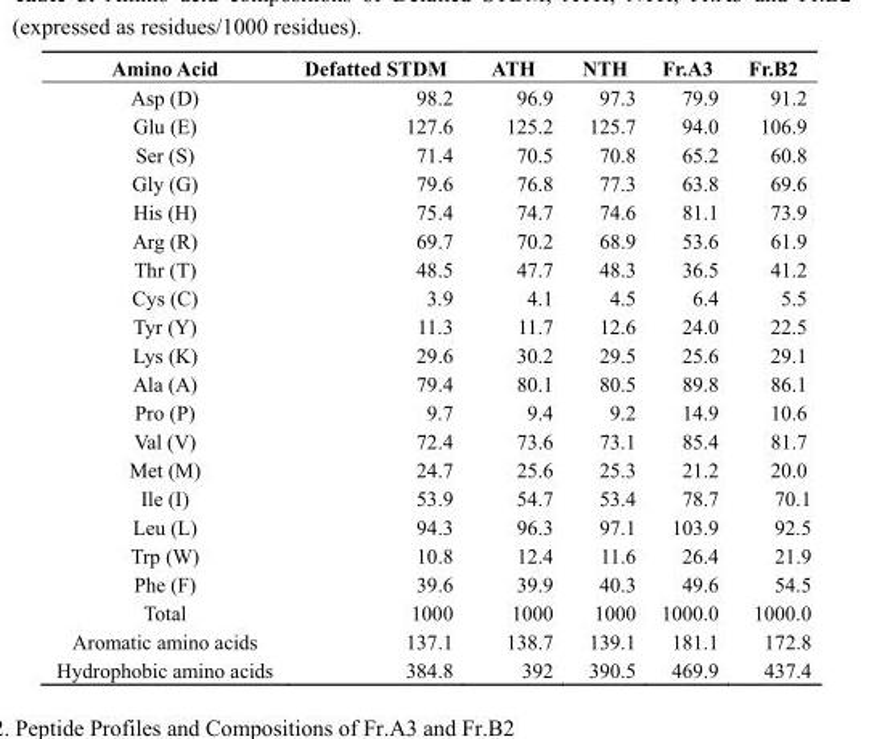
<table><thead><tr><td>Amino Acid</td><td>Defatted STDM</td><td>ATH</td><td>NTH</td><td>Fr.A3</td><td>Fr.B2</td></tr></thead><tbody><tr><td>Asp (D)</td><td>98.2</td><td>96.9</td><td>97.3</td><td>79.9</td><td>91.2</td></tr><tr><td>Glu (E)</td><td>127.6</td><td>125.2</td><td>125.7</td><td>94.0</td><td>106.9</td></tr><tr><td>Ser (S)</td><td>71.4</td><td>70.5</td><td>70.8</td><td>65.2</td><td>60.8</td></tr><tr><td>Gly (G)</td><td>79.6</td><td>76.8</td><td>77.3</td><td>63.8</td><td>69.6</td></tr><tr><td>His (H)</td><td>75.4</td><td>74.7</td><td>74.6</td><td>81.1</td><td>73.9</td></tr><tr><td>Arg (R)</td><td>69.7</td><td>70.2</td><td>68.9</td><td>53.6</td><td>61.9</td></tr><tr><td>Thr (T)</td><td>48.5</td><td>47.7</td><td>48.3</td><td>36.5</td><td>41.2</td></tr><tr><td>Cys (C)</td><td>3.9</td><td>4.1</td><td>4.5</td><td>6.4</td><td>5.5</td></tr><tr><td>Tyr (Y)</td><td>11.3</td><td>11.7</td><td>12.6</td><td>24.0</td><td>22.5</td></tr><tr><td>Lys (K)</td><td>29.6</td><td>30.2</td><td>29.5</td><td>25.6</td><td>29.1</td></tr><tr><td>Ala (A)</td><td>79.4</td><td>80.1</td><td>80.5</td><td>89.8</td><td>86.1</td></tr><tr><td>Pro (P)</td><td>9.7</td><td>9.4</td><td>9.2</td><td>14.9</td><td>10.6</td></tr><tr><td>Val (V)</td><td>72.4</td><td>73.6</td><td>73.1</td><td>85.4</td><td>81.7</td></tr><tr><td>Met (M)</td><td>24.7</td><td>25.6</td><td>25.3</td><td>21.2</td><td>20.0</td></tr><tr><td>Ile (I)</td><td>53.9</td><td>54.7</td><td>53.4</td><td>78.7</td><td>70.1</td></tr><tr><td>Leu (L)</td><td>94.3</td><td>96.3</td><td>97.1</td><td>103.9</td><td>92.5</td></tr><tr><td>Trp (W)</td><td>10.8</td><td>12.4</td><td>11.6</td><td>26.4</td><td>21.9</td></tr><tr><td>Phe (F)</td><td>39.6</td><td>39.9</td><td>40.3</td><td>49.6</td><td>54.5</td></tr><tr><td>Total</td><td>1000</td><td>1000</td><td>1000</td><td>1000.0</td><td>1000.0</td></tr><tr><td>Aromatic amino acids</td><td>137.1</td><td>138.7</td><td>139.1</td><td>181.1</td><td>172.8</td></tr><tr><td>Hydrophobic amino acids</td><td>384.8</td><td>392</td><td>390.5</td><td>469.9</td><td>437.4</td></tr></tbody></table>